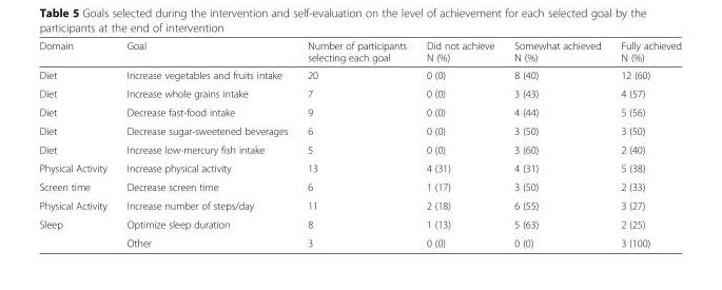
<table><thead><tr><td>Domain</td><td>Goal</td><td>Number of participants selecting each goal</td><td>Did not achieve N (%)</td><td>Somewhat achieved N (%)</td><td>Fully achieved N (%)</td></tr></thead><tbody><tr><td>Diet</td><td>Increase vegetables and fruits intake</td><td>20</td><td>0 (0)</td><td>8 (40)</td><td>12 (60)</td></tr><tr><td>Diet</td><td>Increase whole grains intake</td><td>7</td><td>0 (0)</td><td>3 (43)</td><td>4 (57)</td></tr><tr><td>Diet</td><td>Decrease fast-food intake</td><td>9</td><td>0 (0)</td><td>4 (44)</td><td>5 (56)</td></tr><tr><td>Diet</td><td>Decrease sugar-sweetened beverages</td><td>6</td><td>0 (0)</td><td>3 (50)</td><td>3 (50)</td></tr><tr><td>Diet</td><td>Increase low-mercury fish intake</td><td>5</td><td>0 (0)</td><td>3 (60)</td><td>2 (40)</td></tr><tr><td>Physical Activity</td><td>Increase physical activity</td><td>13</td><td>4 (31)</td><td>4 (31)</td><td>5 (38)</td></tr><tr><td>Screen time</td><td>Decrease screen time</td><td>6</td><td>1 (17)</td><td>3 (50)</td><td>2 (33)</td></tr><tr><td>Physical Activity</td><td>Increase number of steps/day</td><td>11</td><td>2 (18)</td><td>6 (55)</td><td>3 (27)</td></tr><tr><td rowspan="2">Sleep</td><td>Optimize sleep duration</td><td>8</td><td>1 (13)</td><td>5 (63)</td><td>2 (25)</td></tr><tr><td>Other</td><td>3</td><td>0 (0)</td><td>0 (0)</td><td>3 (100)</td></tr></tbody></table>